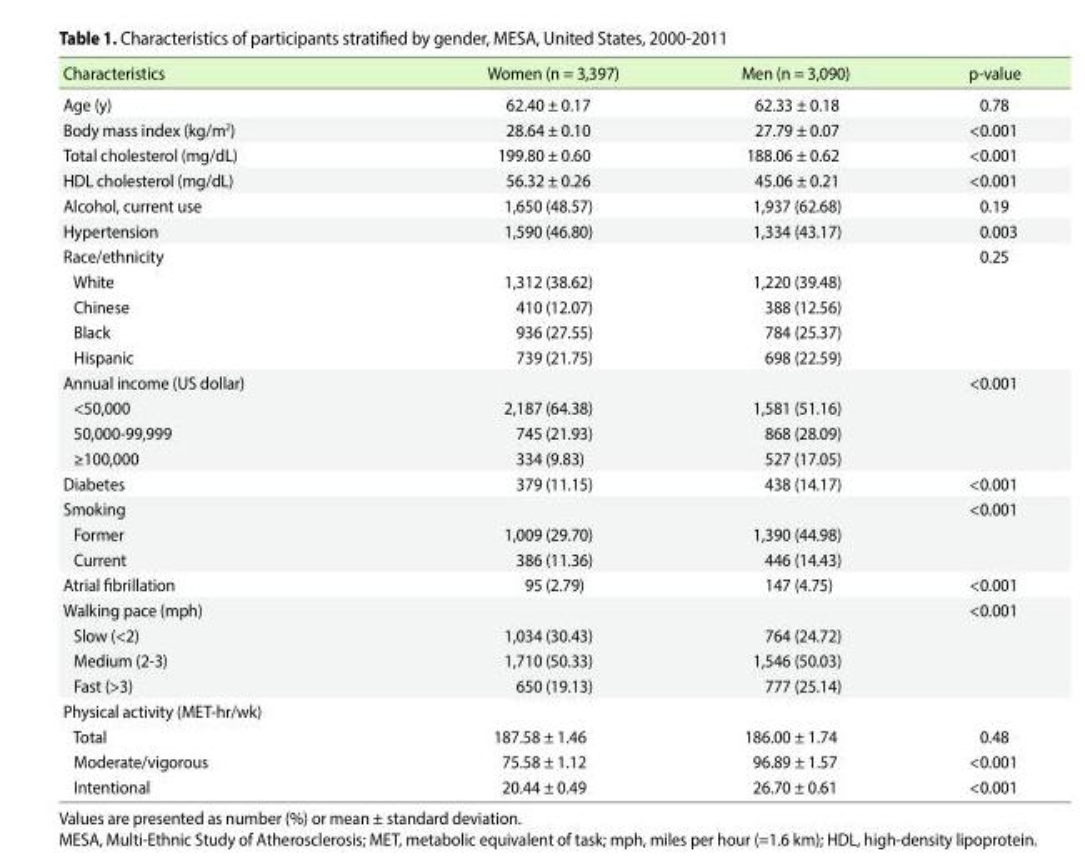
<table><thead><tr><td>Characteristics</td><td>Women (n = 3,397)</td><td>Men (n = 3,090)</td><td>p-value</td></tr></thead><tbody><tr><td>Age (y)</td><td>62.40 ± 0.17</td><td>62.33 ± 0.18</td><td>0.78</td></tr><tr><td>Body mass index (kg/m<sup>2</sup>)</td><td>28.64 ± 0.10</td><td>27.79 ± 0.07</td><td>&lt;0.001</td></tr><tr><td>Total cholesterol (mg/dL)</td><td>199.80 ± 0.60</td><td>188.06 ± 0.62</td><td>&lt;0.001</td></tr><tr><td>HDL cholesterol (mg/dL)</td><td>56.32 ± 0.26</td><td>45.06 ± 0.21</td><td>&lt;0.001</td></tr><tr><td>Alcohol, current use</td><td>1,650 (48.57)</td><td>1,937 (62.68)</td><td>0.19</td></tr><tr><td>Hypertension</td><td>1,590 (46.80)</td><td>1,334 (43.17)</td><td>0.003</td></tr><tr><td>Race/ethnicity</td><td></td><td></td><td>0.25</td></tr><tr><td>White</td><td>1,312 (38.62)</td><td>1,220 (39.48)</td><td></td></tr><tr><td>Chinese</td><td>410 (12.07)</td><td>388 (12.56)</td><td></td></tr><tr><td>Black</td><td>936 (27.55)</td><td>784 (25.37)</td><td></td></tr><tr><td>Hispanic</td><td>739 (21.75)</td><td>698 (22.59)</td><td></td></tr><tr><td>Annual income (US dollar)</td><td></td><td></td><td>&lt;0.001</td></tr><tr><td>&lt;50,000</td><td>2,187 (64.38)</td><td>1,581 (51.16)</td><td></td></tr><tr><td>50,000-99,999</td><td>745 (21.93)</td><td>868 (28.09)</td><td></td></tr><tr><td>≥100,000</td><td>334 (9.83)</td><td>527 (17.05)</td><td></td></tr><tr><td>Diabetes</td><td>379 (11.15)</td><td>438 (14.17)</td><td>&lt;0.001</td></tr><tr><td>Smoking</td><td></td><td></td><td>&lt;0.001</td></tr><tr><td>Former</td><td>1,009 (29.70)</td><td>1,390 (44.98)</td><td></td></tr><tr><td>Current</td><td>386 (11.36)</td><td>446 (14.43)</td><td></td></tr><tr><td>Atrial fibrillation</td><td>95 (2.79)</td><td>147 (4.75)</td><td>&lt;0.001</td></tr><tr><td>Walking pace (mph)</td><td></td><td></td><td>&lt;0.001</td></tr><tr><td>Slow (&lt;2)</td><td>1,034 (30.43)</td><td>764 (24.72)</td><td></td></tr><tr><td>Medium (2-3)</td><td>1,710 (50.33)</td><td>1,546 (50.03)</td><td></td></tr><tr><td>Fast (&gt;3)</td><td>650 (19.13)</td><td>777 (25.14)</td><td></td></tr><tr><td colspan="4">Physical activity (MET-hr/wk)</td></tr><tr><td>Total</td><td>187.58 ± 1.46</td><td>186.00 ± 1.74</td><td>0.48</td></tr><tr><td>Moderate/vigorous</td><td>75.58 ± 1.12</td><td>96.89 ± 1.57</td><td>&lt;0.001</td></tr><tr><td>Intentional</td><td>20.44 ± 0.49</td><td>26.70 ± 0.61</td><td>&lt;0.001</td></tr></tbody></table>